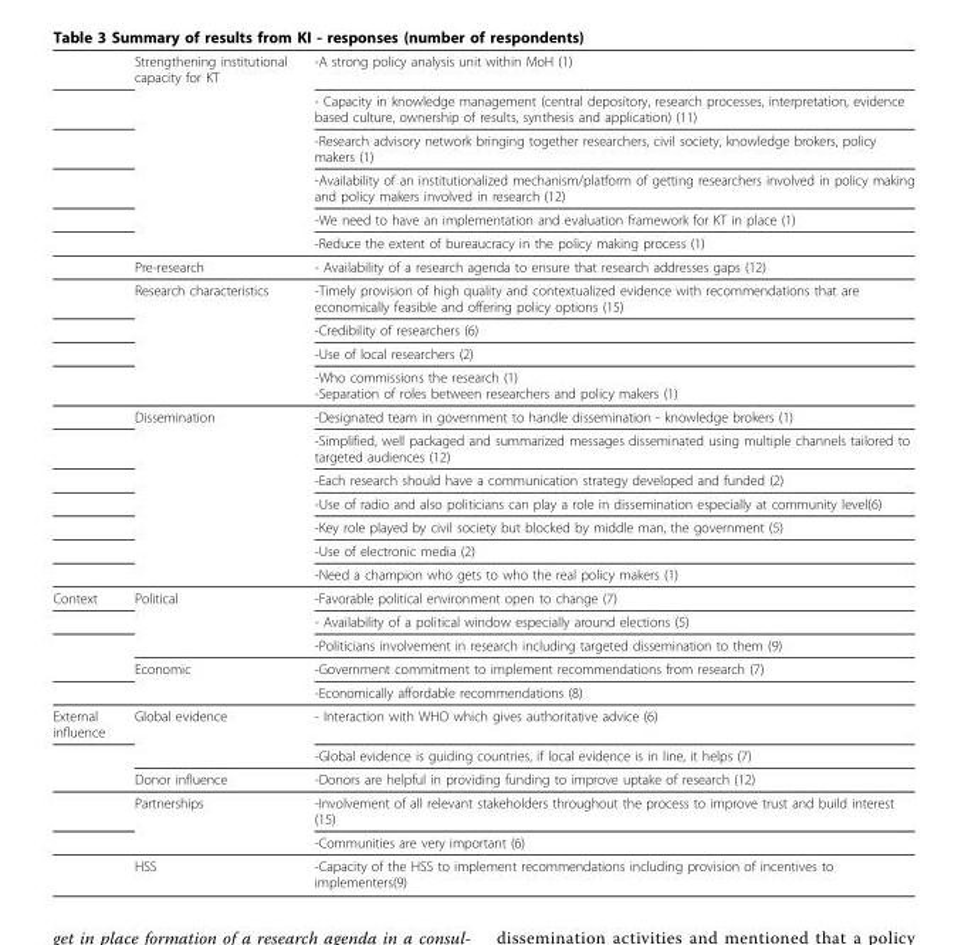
<table><thead><tr><td rowspan="6"></td><td rowspan="6">Strengthening institutional capacity for KT</td><td rowspan="6">-A strong policy analysis unit within MoH (1) - Capacity in knowledge management (central depository, research processes, interpretation, evidence based culture, ownership of results, synthesis and application) (11) -Research advisory network bringing together researchers, civil society, knowledge brokers, policy makers (1) -Availability of an institutionalized mechanism/platform of getting researchers involved in policy making and policy makers involved in research (12) -We need to have an implementation and evaluation framework for KT in place (1) -Reduce the extent of bureaucracy in the policy making process (1)</td></tr><tr></tr><tr></tr><tr></tr><tr></tr><tr></tr></thead><tbody><tr><td></td><td>Pre-research</td><td>- Availability of a research agenda to ensure that research addresses gaps (12)</td></tr><tr><td></td><td>Research characteristics</td><td>-Timely provision of high quality and contextualized evidence with recommendations that are economically feasible and offering policy options (15)</td></tr><tr><td></td><td></td><td>-Credibility of researchers (6)</td></tr><tr><td></td><td></td><td>-Use of local researchers (2)</td></tr><tr><td></td><td></td><td>-Who commissions the research (1) -Separation of roles between researchers and policy makers (1)</td></tr><tr><td></td><td>Dissemination</td><td>-Designated team in government to handle dissemination - knowledge brokers (1)</td></tr><tr><td></td><td></td><td>-Simplified, well packaged and summarized messages disseminated using multiple channels tailored to targeted audiences (12)</td></tr><tr><td></td><td></td><td>-Each research should have a communication strategy developed and funded (2)</td></tr><tr><td></td><td></td><td>-Use of radio and also politicians can play a role in dissemination especially at community level(6)</td></tr><tr><td></td><td></td><td>-Key role played by civil society but blocked by middle man, the government (5)</td></tr><tr><td></td><td></td><td>-Use of electronic media (2)</td></tr><tr><td></td><td></td><td>-Need a champion who gets to who the real policy makers (1)</td></tr><tr><td rowspan="5">Context</td><td>Political</td><td>-Favorable political environment open to change (7)</td></tr><tr><td></td><td>- Availability of a political window especially around elections (5)</td></tr><tr><td></td><td>-Politicians involvement in research including targeted dissemination to them (9)</td></tr><tr><td>Economic</td><td>-Government commitment to implement recommendations from research (7)</td></tr><tr><td></td><td>-Economically affordable recommendations (8)</td></tr><tr><td rowspan="6">External influence</td><td>Global evidence</td><td>- Interaction with WHO which gives authoritative advice (6)</td></tr><tr><td></td><td>-Global evidence is guiding countries, if local evidence is in line, it helps (7)</td></tr><tr><td>Donor influence</td><td>-Donors are helpful in providing funding to improve uptake of research (12)</td></tr><tr><td>Partnerships</td><td>-Involvement of all relevant stakeholders throughout the process to improve trust and build interest (15)</td></tr><tr><td></td><td>-Communities are very important (6)</td></tr><tr><td>HSS</td><td>-Capacity of the HSS to implement recommendations including provision of incentives to implementers(9)</td></tr></tbody></table>